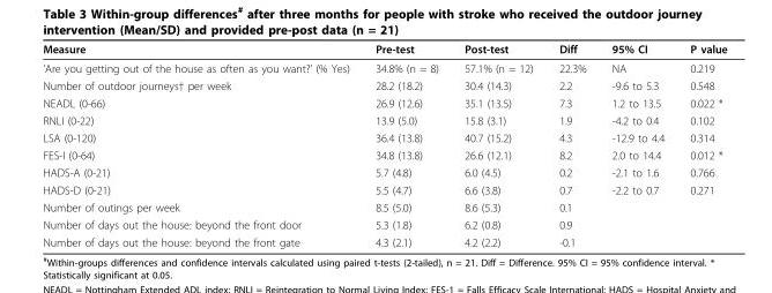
<table><thead><tr><td>Measure</td><td>Pre-test</td><td>Post-test</td><td>Diff</td><td>95% CI</td><td>P value</td></tr></thead><tbody><tr><td>’Are you getting out of the house as often as you want?’ (% Yes)</td><td>34.8% (n = 8)</td><td>57.1% (n = 12)</td><td>22.3%</td><td>NA</td><td>0.219</td></tr><tr><td>Number of outdoor journeys† per week</td><td>28.2 (18.2)</td><td>30.4 (14.3)</td><td>2.2</td><td>-9.6 to 5.3</td><td>0.548</td></tr><tr><td>NEADL (0-66)</td><td>26.9 (12.6)</td><td>35.1 (13.5)</td><td>7.3</td><td>1.2 to 13.5</td><td>0.022 *</td></tr><tr><td>RNLI (0-22)</td><td>13.9 (5.0)</td><td>15.8 (3.1)</td><td>1.9</td><td>-4.2 to 0.4</td><td>0.102</td></tr><tr><td>LSA (0-120)</td><td>36.4 (13.8)</td><td>40.7 (15.2)</td><td>4.3</td><td>-12.9 to 4.4</td><td>0.314</td></tr><tr><td>FES-I (0-64)</td><td>34.8 (13.8)</td><td>26.6 (12.1)</td><td>8.2</td><td>2.0 to 14.4</td><td>0.012 *</td></tr><tr><td>HADS-A (0-21)</td><td>5.7 (4.8)</td><td>6.0 (4.5)</td><td>0.2</td><td>-2.1 to 1.6</td><td>0.766</td></tr><tr><td>HADS-D (0-21)</td><td>5.5 (4.7)</td><td>6.6 (3.8)</td><td>0.7</td><td>-2.2 to 0.7</td><td>0.271</td></tr><tr><td>Number of outings per week</td><td>8.5 (5.0)</td><td>8.6 (5.3)</td><td>0.1</td><td></td><td></td></tr><tr><td>Number of days out the house: beyond the front door</td><td>5.3 (1.8)</td><td>6.2 (0.8)</td><td>0.9</td><td></td><td></td></tr><tr><td>Number of days out the house: beyond the front gate</td><td>4.3 (2.1)</td><td>4.2 (2.2)</td><td>-0.1</td><td></td><td></td></tr></tbody></table>